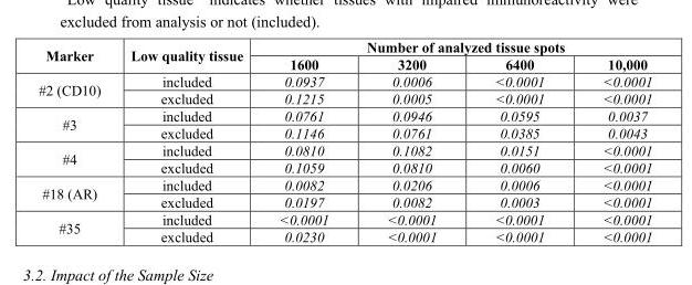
<table><thead><tr><td rowspan="2">Marker</td><td rowspan="2">Low quality tissue</td><td colspan="4">Number of analyzed tissue spots</td></tr><tr><td>1600</td><td>3200</td><td>6400</td><td>10,000</td></tr></thead><tbody><tr><td rowspan="2">#2 (CD10)</td><td>included</td><td>0.0937</td><td>0.0006</td><td>&lt;0.0001</td><td>&lt;0.0001</td></tr><tr><td>excluded</td><td>0.1215</td><td>0.0005</td><td>&lt;0.0001</td><td>&lt;0.0001</td></tr><tr><td rowspan="2">#3</td><td>included</td><td>0.0761</td><td>0.0946</td><td>0.0595</td><td>0.0037</td></tr><tr><td>excluded</td><td>0.1146</td><td>0.0761</td><td>0.0385</td><td>0.0043</td></tr><tr><td rowspan="2">#4</td><td>included</td><td>0.0810</td><td>0.1082</td><td>0.0151</td><td>&lt;0.0001</td></tr><tr><td>excluded</td><td>0.1059</td><td>0.0810</td><td>0.0060</td><td>&lt;0.0001</td></tr><tr><td rowspan="2">#18 (AR)</td><td>included</td><td>0.0082</td><td>0.0206</td><td>0.0006</td><td>&lt;0.0001</td></tr><tr><td>excluded</td><td>0.0197</td><td>0.0082</td><td>0.0003</td><td>&lt;0.0001</td></tr><tr><td rowspan="2">#35</td><td>included</td><td>&lt;0.0001</td><td>&lt;0.0001</td><td>&lt;0.0001</td><td>&lt;0.0001</td></tr><tr><td>excluded</td><td>0.0230</td><td>&lt;0.0001</td><td>&lt;0.0001</td><td>&lt;0.0001</td></tr></tbody></table>